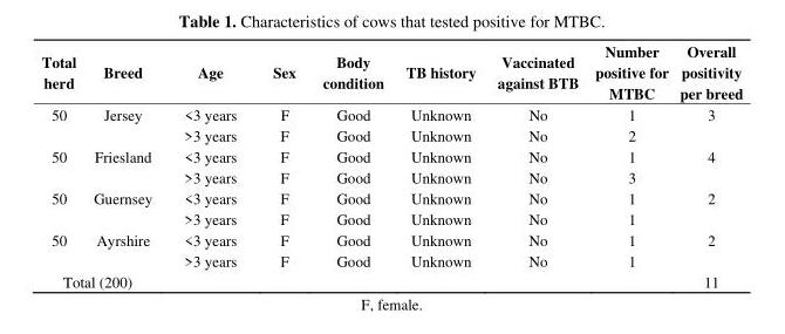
<table><thead><tr><td>Total herd</td><td>Breed</td><td>Age</td><td>Sex</td><td>Body condition</td><td>TB history</td><td>Vaccinated against BTB</td><td>Number positive for MTBC</td><td>Overall positivity per breed</td></tr></thead><tbody><tr><td rowspan="2">50</td><td>Jersey</td><td>&lt;3 years</td><td>F</td><td>Good</td><td>Unknown</td><td>No</td><td>1</td><td>3</td></tr><tr><td></td><td>&gt;3 years</td><td>F</td><td>Good</td><td>Unknown</td><td>No</td><td>2</td><td></td></tr><tr><td rowspan="2">50</td><td>Friesland</td><td>&lt;3 years</td><td>F</td><td>Good</td><td>Unknown</td><td>No</td><td>1</td><td>4</td></tr><tr><td></td><td>&gt;3 years</td><td>F</td><td>Good</td><td>Unknown</td><td>No</td><td>3</td><td></td></tr><tr><td rowspan="2">50</td><td>Guernsey</td><td>&lt;3 years</td><td>F</td><td>Good</td><td>Unknown</td><td>No</td><td>1</td><td>2</td></tr><tr><td></td><td>&gt;3 years</td><td>F</td><td>Good</td><td>Unknown</td><td>No</td><td>1</td><td></td></tr><tr><td rowspan="2">50</td><td>Ayrshire</td><td>&lt;3 years</td><td>F</td><td>Good</td><td>Unknown</td><td>No</td><td>1</td><td>2</td></tr><tr><td></td><td>&gt;3 years</td><td>F</td><td>Good</td><td>Unknown</td><td>No</td><td>1</td><td></td></tr><tr><td colspan="2">Total (200)</td><td></td><td></td><td></td><td></td><td></td><td></td><td>11</td></tr></tbody></table>